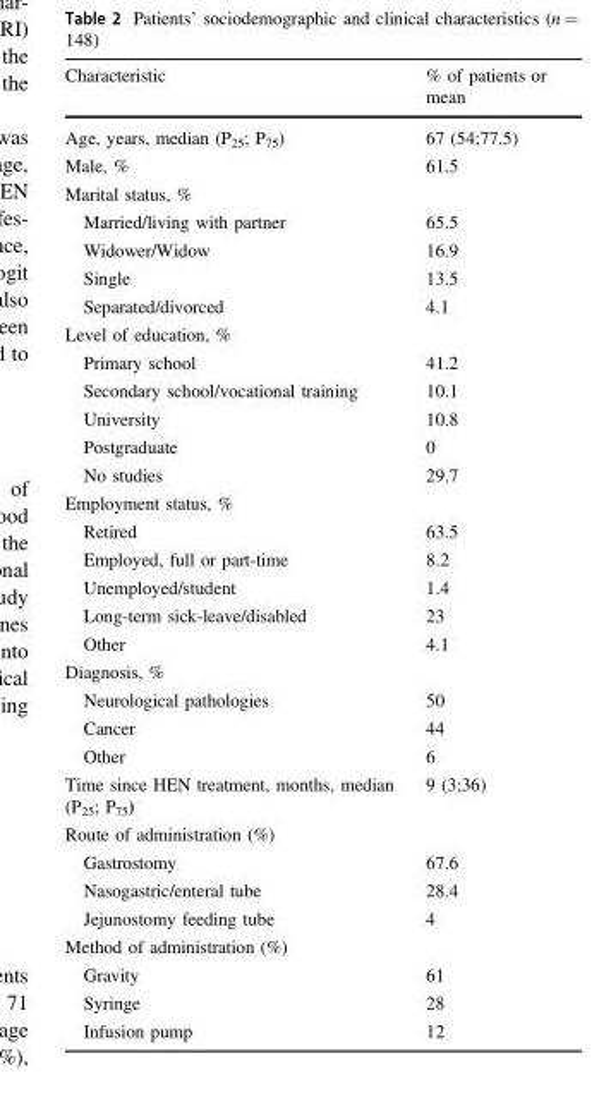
<table><thead><tr><td>Characteristic</td><td>% of patients or mean</td></tr></thead><tbody><tr><td>Age, years, median (P<sub>25</sub>; P<sub>75</sub>)</td><td>67 (54;77.5)</td></tr><tr><td>Male, %</td><td>61.5</td></tr><tr><td colspan="2">Marital status, %</td></tr><tr><td>Married/living with partner</td><td>65.5</td></tr><tr><td>Widower/Widow</td><td>16.9</td></tr><tr><td>Single</td><td>13.5</td></tr><tr><td>Separated/divorced</td><td>4.1</td></tr><tr><td colspan="2">Level of education, %</td></tr><tr><td>Primary school</td><td>41.2</td></tr><tr><td>Secondary school/vocational training</td><td>10.1</td></tr><tr><td>University</td><td>10.8</td></tr><tr><td>Postgraduate</td><td>0</td></tr><tr><td>No studies</td><td>29.7</td></tr><tr><td colspan="2">Employment status, %</td></tr><tr><td>Retired</td><td>63.5</td></tr><tr><td>Employed, full or part-time</td><td>8.2</td></tr><tr><td>Unemployed/student</td><td>1.4</td></tr><tr><td>Long-term sick-leave/disabled</td><td>23</td></tr><tr><td>Other</td><td>4.1</td></tr><tr><td colspan="2">Diagnosis, %</td></tr><tr><td>Neurological pathologies</td><td>50</td></tr><tr><td>Cancer</td><td>44</td></tr><tr><td>Other</td><td>6</td></tr><tr><td>Time since HEN treatment, months, median (P<sub>25</sub>; P<sub>75</sub>)</td><td>9 (3;36)</td></tr><tr><td colspan="2">Route of administration (%)</td></tr><tr><td>Gastrostomy</td><td>67.6</td></tr><tr><td>Nasogastric/enteral tube</td><td>28.4</td></tr><tr><td>Jejunostomy feeding tube</td><td>4</td></tr><tr><td colspan="2">Method of administration (%)</td></tr><tr><td>Gravity</td><td>61</td></tr><tr><td>Syringe</td><td>28</td></tr><tr><td>Infusion pump</td><td>12</td></tr></tbody></table>